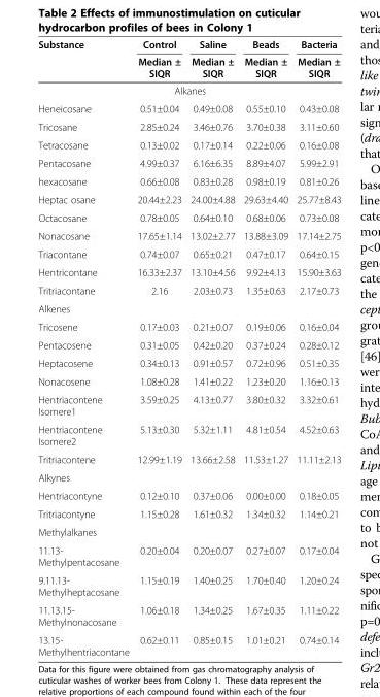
<table><thead><tr><td rowspan="2">Substance</td><td rowspan="2">Control Median ± SIQR</td><td rowspan="2">Saline Median ± SIQR</td><td rowspan="2">Beads Median ± SIQR</td><td rowspan="2">Bacteria Median ± SIQR</td></tr><tr></tr></thead><tbody><tr><td colspan="5">Alkanes</td></tr><tr><td>Heneicosane</td><td>0.51±0.04</td><td>0.49±0.08</td><td>0.55±0.10</td><td>0.43±0.08</td></tr><tr><td>Tricosane</td><td>2.85±0.24</td><td>3.46±0.76</td><td>3.70±0.38</td><td>3.11±0.60</td></tr><tr><td>Tetracosane</td><td>0.13±0.02</td><td>0.17±0.14</td><td>0.22±0.06</td><td>0.16±0.08</td></tr><tr><td>Pentacosane</td><td>4.99±0.37</td><td>6.16±6.35</td><td>8.89±4.07</td><td>5.99±2.91</td></tr><tr><td>hexacosane</td><td>0.66±0.08</td><td>0.83±0.28</td><td>0.98±0.19</td><td>0.81±0.26</td></tr><tr><td>Heptac osane</td><td>20.44±2.23</td><td>24.00±4.88</td><td>29.63±4.40</td><td>25.77±8.43</td></tr><tr><td>Octacosane</td><td>0.78±0.05</td><td>0.64±0.10</td><td>0.68±0.06</td><td>0.73±0.08</td></tr><tr><td>Nonacosane</td><td>17.65±1.14</td><td>13.02±2.77</td><td>13.88±3.09</td><td>17.14±2.75</td></tr><tr><td>Triacontane</td><td>0.74±0.07</td><td>0.65±0.21</td><td>0.47±0.17</td><td>0.64±0.15</td></tr><tr><td>Hentricontane</td><td>16.33±2.37</td><td>13.10±4.56</td><td>9.92±4.13</td><td>15.90±3.63</td></tr><tr><td>Tritriacontane</td><td>2.16</td><td>2.03±0.73</td><td>1.35±0.63</td><td>2.17±0.73</td></tr><tr><td colspan="5">Alkenes</td></tr><tr><td>Tricosene</td><td>0.17±0.03</td><td>0.21±0.07</td><td>0.19±0.06</td><td>0.16±0.04</td></tr><tr><td>Pentacosene</td><td>0.31±0.05</td><td>0.42±0.20</td><td>0.37±0.24</td><td>0.28±0.12</td></tr><tr><td>Heptacosene</td><td>0.34±0.13</td><td>0.91±0.57</td><td>0.72±0.96</td><td>0.51±0.35</td></tr><tr><td>Nonacosene</td><td>1.08±0.28</td><td>1.41±0.22</td><td>1.23±0.20</td><td>1.16±0.13</td></tr><tr><td>Hentriacontene Isomere1</td><td>3.59±0.25</td><td>4.13±0.77</td><td>3.80±0.32</td><td>3.32±0.61</td></tr><tr><td>Hentriacontene Isomere2</td><td>5.13±0.30</td><td>5.32±1.11</td><td>4.81±0.54</td><td>4.52±0.63</td></tr><tr><td>Tritriacontene</td><td>12.99±1.19</td><td>13.66±2.58</td><td>11.53±1.27</td><td>11.11±2.13</td></tr><tr><td colspan="5">Alkynes</td></tr><tr><td>Hentriacontyne</td><td>0.12±0.10</td><td>0.37±0.06</td><td>0.00±0.00</td><td>0.18±0.05</td></tr><tr><td>Tritriacontyne</td><td>1.15±0.28</td><td>1.61±0.32</td><td>1.34±0.32</td><td>1.14±0.21</td></tr><tr><td colspan="5">Methylalkanes</td></tr><tr><td>11.13- Methylpentacosane</td><td>0.20±0.04</td><td>0.20±0.07</td><td>0.27±0.07</td><td>0.17±0.04</td></tr><tr><td>9.11.13- Methylheptacosane</td><td>1.15±0.19</td><td>1.40±0.25</td><td>1.70±0.40</td><td>1.20±0.24</td></tr><tr><td>11.13.15- Methylnonacosane</td><td>1.06±0.18</td><td>1.34±0.25</td><td>1.67±0.35</td><td>1.11±0.22</td></tr><tr><td>13.15- Methylhentriacontane</td><td>0.62±0.11</td><td>0.85±0.15</td><td>1.01±0.21</td><td>0.74±0.14</td></tr></tbody></table>